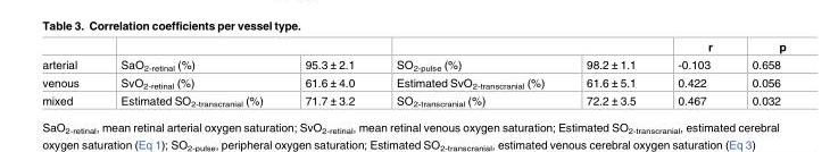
<table><thead><tr><td></td><td></td><td></td><td></td><td></td><td>r</td><td>p</td></tr></thead><tbody><tr><td>arterial</td><td>SaO<sub>2-retinal</sub> (%)</td><td>95.3 ± 2.1</td><td>SO<sub>2-pulse</sub> (%)</td><td>98.2 ± 1.1</td><td>-0.103</td><td>0.658</td></tr><tr><td>venous</td><td>SvO<sub>2-retinal</sub> (%)</td><td>61.6 ± 4.0</td><td>Estimated SvO<sub>2-transcranial</sub> (%)</td><td>61.6 ± 5.1</td><td>0.422</td><td>0.056</td></tr><tr><td>mixed</td><td>Estimated SO<sub>2-transcranial</sub> (%)</td><td>71.7 ± 3.2</td><td>SO<sub>2-transcranial</sub> (%)</td><td>72.2 ± 3.5</td><td>0.467</td><td>0.032</td></tr></tbody></table>